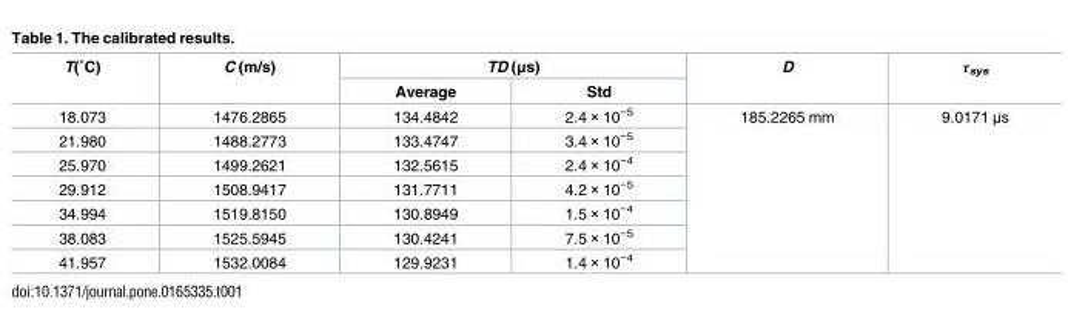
<table><thead><tr><td rowspan="2">T(˚C)</td><td rowspan="2">C (m/s)</td><td colspan="2">TD (μs)</td><td rowspan="2">D</td><td rowspan="2">τ<sub>sys</sub></td></tr><tr><td>Average</td><td>Std</td></tr></thead><tbody><tr><td>18.073</td><td>1476.2865</td><td>134.4842</td><td>2.4 × 10<sup>−5</sup></td><td rowspan="7">185.2265 mm</td><td rowspan="7">9.0171 μs</td></tr><tr><td>21.980</td><td>1488.2773</td><td>133.4747</td><td>3.4 × 10<sup>−5</sup></td></tr><tr><td>25.970</td><td>1499.2621</td><td>132.5615</td><td>2.4 × 10<sup>−4</sup></td></tr><tr><td>29.912</td><td>1508.9417</td><td>131.7711</td><td>4.2 × 10<sup>−5</sup></td></tr><tr><td>34.994</td><td>1519.8150</td><td>130.8949</td><td>1.5 × 10<sup>−4</sup></td></tr><tr><td>38.083</td><td>1525.5945</td><td>130.4241</td><td>7.5 × 10<sup>−5</sup></td></tr><tr><td>41.957</td><td>1532.0084</td><td>129.9231</td><td>1.4 × 10<sup>−4</sup></td></tr></tbody></table>